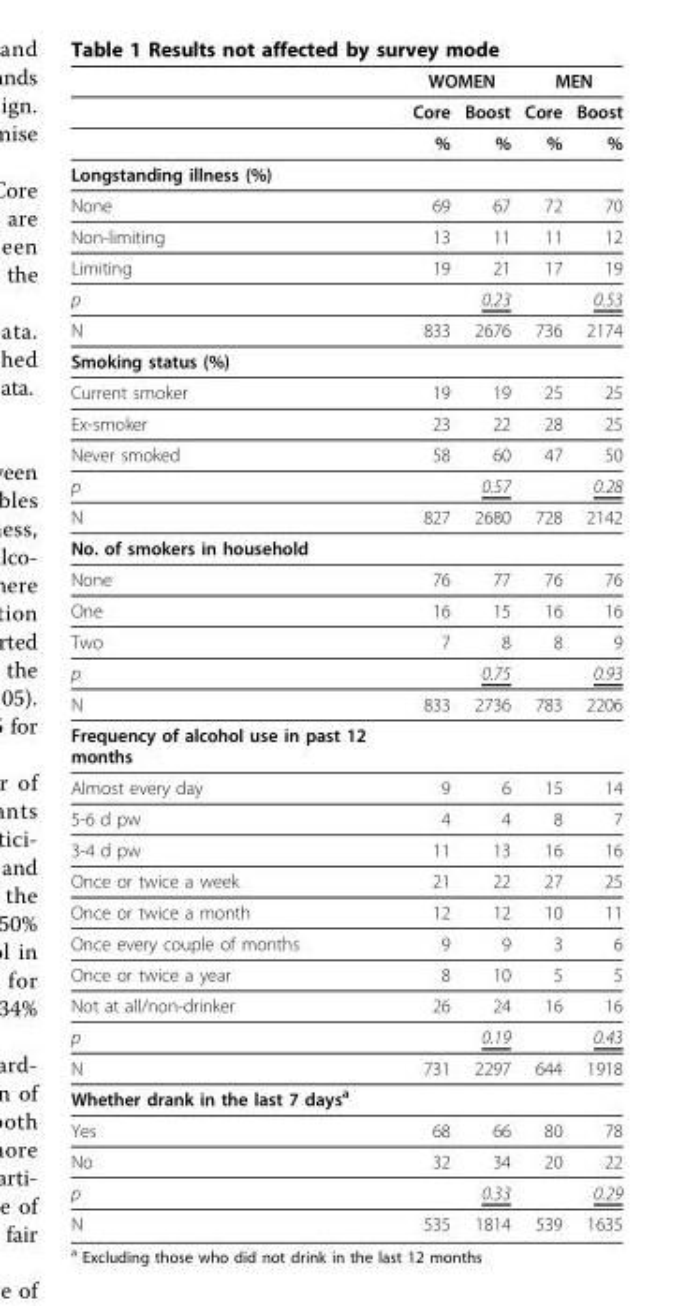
<table><thead><tr><td rowspan="2"></td><td colspan="2">WOMEN</td><td colspan="2">MEN</td></tr><tr><td>Core</td><td>Boost</td><td>Core</td><td>Boost</td></tr></thead><tbody><tr><td></td><td>%</td><td>%</td><td>%</td><td>%</td></tr><tr><td colspan="5">Longstanding illness (%)</td></tr><tr><td>None</td><td>69</td><td>67</td><td>72</td><td>70</td></tr><tr><td>Non-limiting</td><td>13</td><td>11</td><td>11</td><td>12</td></tr><tr><td>Limiting</td><td>19</td><td>21</td><td>17</td><td>19</td></tr><tr><td>p</td><td></td><td>0.23</td><td></td><td>0.53</td></tr><tr><td>N</td><td>833</td><td>2676</td><td>736</td><td>2174</td></tr><tr><td colspan="5">Smoking status (%)</td></tr><tr><td>Current smoker</td><td>19</td><td>19</td><td>25</td><td>25</td></tr><tr><td>Ex-smoker</td><td>23</td><td>22</td><td>28</td><td>25</td></tr><tr><td>Never smoked</td><td>58</td><td>60</td><td>47</td><td>50</td></tr><tr><td>p</td><td></td><td>0.57</td><td></td><td>0.28</td></tr><tr><td>N</td><td>827</td><td>2680</td><td>728</td><td>2142</td></tr><tr><td colspan="5">No. of smokers in household</td></tr><tr><td>None</td><td>76</td><td>77</td><td>76</td><td>76</td></tr><tr><td>One</td><td>16</td><td>15</td><td>16</td><td>16</td></tr><tr><td>Two</td><td>7</td><td>8</td><td>8</td><td>9</td></tr><tr><td>p</td><td></td><td>0.75</td><td></td><td>0.93</td></tr><tr><td>N</td><td>833</td><td>2736</td><td>783</td><td>2206</td></tr><tr><td colspan="5">Frequency of alcohol use in past 12 months</td></tr><tr><td>Almost every day</td><td>9</td><td>6</td><td>15</td><td>14</td></tr><tr><td>5-6 d pw</td><td>4</td><td>4</td><td>8</td><td>7</td></tr><tr><td>3-4 d pw</td><td>11</td><td>13</td><td>16</td><td>16</td></tr><tr><td>Once or twice a week</td><td>21</td><td>22</td><td>27</td><td>25</td></tr><tr><td>Once or twice a month</td><td>12</td><td>12</td><td>10</td><td>11</td></tr><tr><td>Once every couple of months</td><td>9</td><td>9</td><td>3</td><td>6</td></tr><tr><td>Once or twice a year</td><td>8</td><td>10</td><td>5</td><td>5</td></tr><tr><td>Not at all/non-drinker</td><td>26</td><td>24</td><td>16</td><td>16</td></tr><tr><td>p</td><td></td><td>0.19</td><td></td><td>0.43</td></tr><tr><td>N</td><td>731</td><td>2297</td><td>644</td><td>1918</td></tr><tr><td colspan="5">Whether drank in the last 7 daysa</td></tr><tr><td>Yes</td><td>68</td><td>66</td><td>80</td><td>78</td></tr><tr><td>No</td><td>32</td><td>34</td><td>20</td><td>22</td></tr><tr><td>p</td><td></td><td>0.33</td><td></td><td>0.29</td></tr><tr><td>N</td><td>535</td><td>1814</td><td>539</td><td>1635</td></tr></tbody></table>